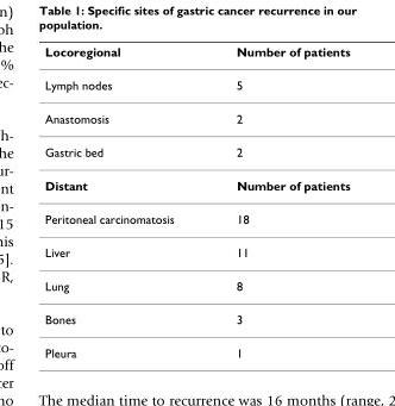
<table><thead><tr><td>Locoregional</td><td>Number of patients</td></tr></thead><tbody><tr><td>Lymph nodes</td><td>5</td></tr><tr><td>Anastomosis</td><td>2</td></tr><tr><td>Gastric bed</td><td>2</td></tr><tr><td>Distant</td><td>Number of patients</td></tr><tr><td>Peritoneal carcinomatosis</td><td>18</td></tr><tr><td>Liver</td><td>11</td></tr><tr><td>Lung</td><td>8</td></tr><tr><td>Bones</td><td>3</td></tr><tr><td>Pleura</td><td>1</td></tr></tbody></table>